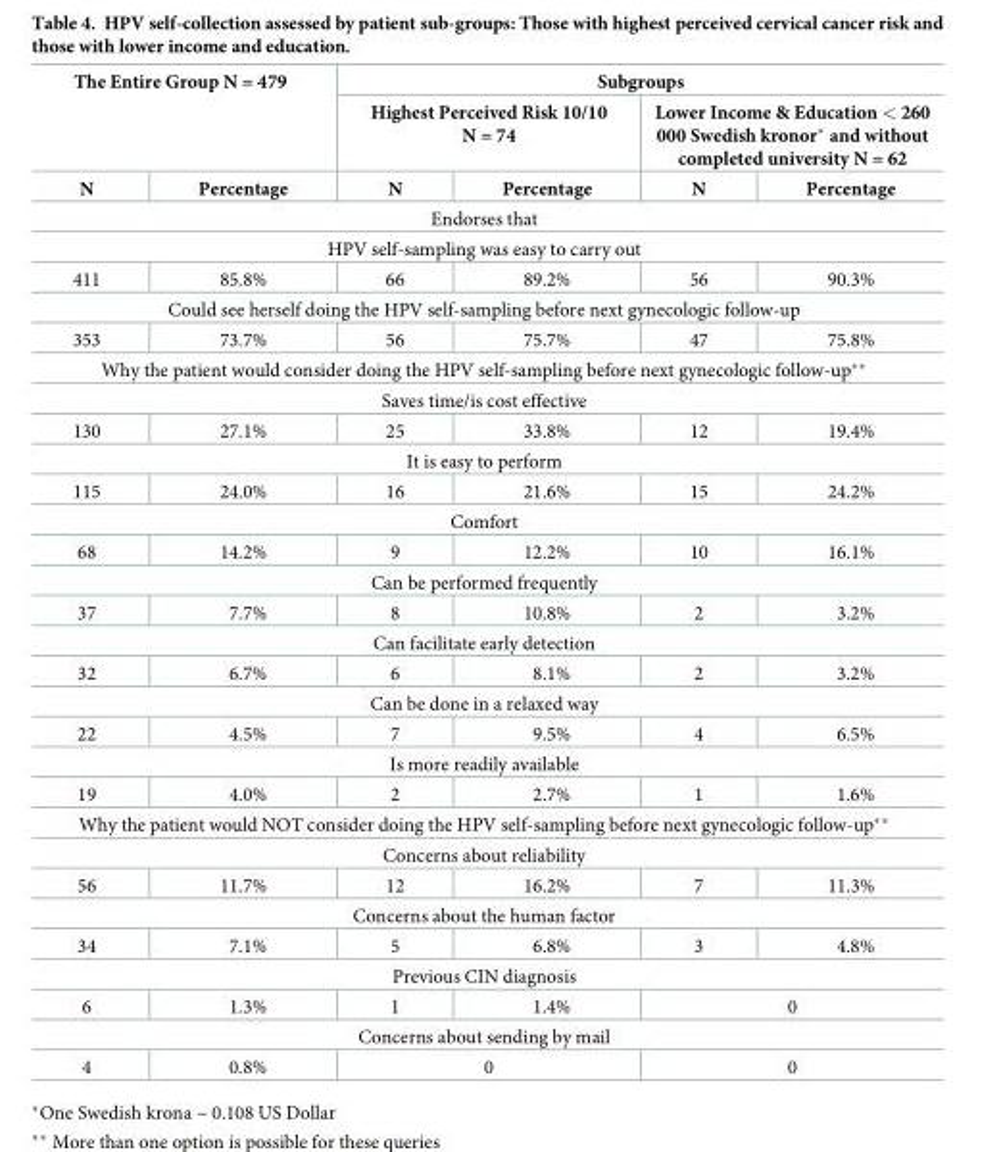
<table><thead><tr><td rowspan="2" colspan="2">The Entire Group N = 479</td><td colspan="4">Subgroups</td></tr><tr><td colspan="2">Highest Perceived Risk 10/10 N = 74</td><td colspan="2">Lower Income &amp; Education &lt; 260 000 Swedish kronor* and without completed university N = 62</td></tr><tr><td>N</td><td>Percentage</td><td>N</td><td>Percentage</td><td>N</td><td>Percentage</td></tr></thead><tbody><tr><td colspan="6">Endorses that</td></tr><tr><td colspan="6">HPV self-sampling was easy to carry out</td></tr><tr><td>411</td><td>85.8%</td><td>66</td><td>89.2%</td><td>56</td><td>90.3%</td></tr><tr><td colspan="6">Could see herself doing the HPV self-sampling before next gynecologic follow-up</td></tr><tr><td>353</td><td>73.7%</td><td>56</td><td>75.7%</td><td>47</td><td>75.8%</td></tr><tr><td colspan="6">Why the patient would consider doing the HPV self-sampling before next gynecologic follow-up**</td></tr><tr><td colspan="6">Saves time/is cost effective</td></tr><tr><td>130</td><td>27.1%</td><td>25</td><td>33.8%</td><td>12</td><td>19.4%</td></tr><tr><td colspan="6">It is easy to perform</td></tr><tr><td>115</td><td>24.0%</td><td>16</td><td>21.6%</td><td>15</td><td>24.2%</td></tr><tr><td colspan="6">Comfort</td></tr><tr><td>68</td><td>14.2%</td><td>9</td><td>12.2%</td><td>10</td><td>16.1%</td></tr><tr><td colspan="6">Can be performed frequently</td></tr><tr><td>37</td><td>7.7%</td><td>8</td><td>10.8%</td><td>2</td><td>3.2%</td></tr><tr><td colspan="6">Can facilitate early detection</td></tr><tr><td>32</td><td>6.7%</td><td>6</td><td>8.1%</td><td>2</td><td>3.2%</td></tr><tr><td colspan="6">Can be done in a relaxed way</td></tr><tr><td>22</td><td>4.5%</td><td>7</td><td>9.5%</td><td>4</td><td>6.5%</td></tr><tr><td colspan="6">Is more readily available</td></tr><tr><td>19</td><td>4.0%</td><td>2</td><td>2.7%</td><td>1</td><td>1.6%</td></tr><tr><td colspan="6">Why the patient would NOT consider doing the HPV self-sampling before next gynecologic follow-up**</td></tr><tr><td colspan="6">Concerns about reliability</td></tr><tr><td>56</td><td>11.7%</td><td>12</td><td>16.2%</td><td>7</td><td>11.3%</td></tr><tr><td colspan="6">Concerns about the human factor</td></tr><tr><td>34</td><td>7.1%</td><td>5</td><td>6.8%</td><td>3</td><td>4.8%</td></tr><tr><td colspan="6">Previous CIN diagnosis</td></tr><tr><td>6</td><td>1.3%</td><td>1</td><td>1.4%</td><td colspan="2">0</td></tr><tr><td colspan="6">Concerns about sending by mail</td></tr><tr><td>4</td><td>0.8%</td><td colspan="2">0</td><td colspan="2">0</td></tr></tbody></table>